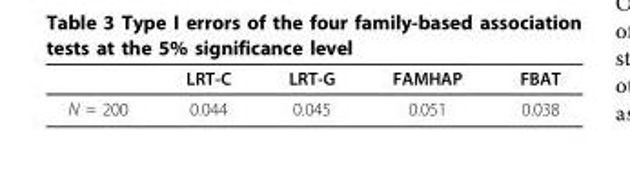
<table><thead><tr><td></td><td>LRT-C</td><td>LRT-G</td><td>FAMHAP</td><td>FBAT</td></tr></thead><tbody><tr><td>N = 200</td><td>0.044</td><td>0.045</td><td>0.051</td><td>0.038</td></tr></tbody></table>